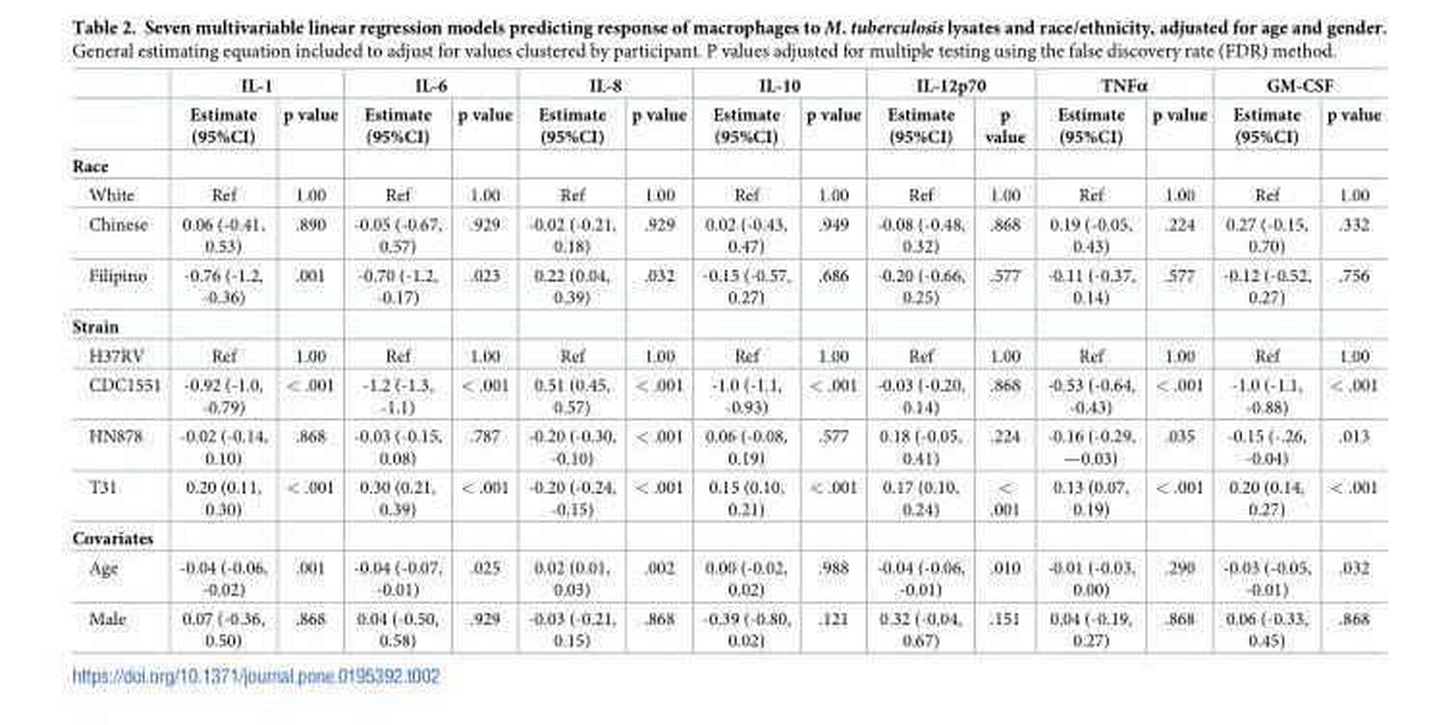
<table><thead><tr><td rowspan="2"></td><td colspan="2">IL-1</td><td colspan="2">IL-6</td><td colspan="2">IL-8</td><td colspan="2">IL-10</td><td colspan="2">IL-12p70</td><td colspan="2">TNFα</td><td colspan="2">GM-CSF</td></tr><tr><td>Estimate (95%CI)</td><td>p value</td><td>Estimate (95%CI)</td><td>p value</td><td>Estimate (95%CI)</td><td>p value</td><td>Estimate (95%CI)</td><td>p value</td><td>Estimate (95%CI)</td><td>p value</td><td>Estimate (95%CI)</td><td>p value</td><td>Estimate (95%CI)</td><td>p value</td></tr></thead><tbody><tr><td colspan="15">Race</td></tr><tr><td>White</td><td>Ref</td><td>1.00</td><td>Ref</td><td>1.00</td><td>Ref</td><td>1.00</td><td>Ref</td><td>1.00</td><td>Ref</td><td>1.00</td><td>Ref</td><td>1.00</td><td>Ref</td><td>1.00</td></tr><tr><td>Chinese</td><td>0.06 (-0.41, 0.53)</td><td>.890</td><td>-0.05 (-0.67, 0.57)</td><td>.929</td><td>-0.02 (-0.21, 0.18)</td><td>.929</td><td>0.02 (-0.43, 0.47)</td><td>.949</td><td>-0.08 (-0.48, 0.32)</td><td>.868</td><td>0.19 (-0.05, 0.43)</td><td>.224</td><td>0.27 (-0.15, 0.70)</td><td>.332</td></tr><tr><td>Filipino</td><td>-0.76 (-1.2, -0.36)</td><td>.001</td><td>-0.70 (-1.2, -0.17)</td><td>.023</td><td>0.22 (0.04, 0.39)</td><td>.032</td><td>-0.15 (-0.57, 0.27)</td><td>.686</td><td>-0.20 (-0.66, 0.25)</td><td>.577</td><td>-0.11 (-0.37, 0.14)</td><td>.577</td><td>-0.12 (-0.52, 0.27)</td><td>.756</td></tr><tr><td colspan="15">Strain</td></tr><tr><td>H37RV</td><td>Ref</td><td>1.00</td><td>Ref</td><td>1.00</td><td>Ref</td><td>1.00</td><td>Ref</td><td>1.00</td><td>Ref</td><td>1.00</td><td>Ref</td><td>1.00</td><td>Ref</td><td>1.00</td></tr><tr><td>CDC1551</td><td>-0.92 (-1.0, -0.79)</td><td>&lt; .001</td><td>-1.2 (-1.3, -1.1)</td><td>&lt; .001</td><td>0.51 (0.45, 0.57)</td><td>&lt; .001</td><td>-1.0 (-1.1, -0.93)</td><td>&lt; .001</td><td>-0.03 (-0.20, 0.14)</td><td>.868</td><td>-0.53 (-0.64, -0.43)</td><td>&lt; .001</td><td>-1.0 (-1.1, -0.88)</td><td>&lt; .001</td></tr><tr><td>HN878</td><td>-0.02 (-0.14, 0.10)</td><td>.868</td><td>-0.03 (-0.15, 0.08)</td><td>.787</td><td>-0.20 (-0.30, -0.10)</td><td>&lt; .001</td><td>0.06 (-0.08, 0.19)</td><td>.577</td><td>0.18 (-0.05, 0.41)</td><td>.224</td><td>-0.16 (-0.29, —0.03)</td><td>.035</td><td>-0.15 (-.26, -0.04)</td><td>.013</td></tr><tr><td>T31</td><td>0.20 (0.11, 0.30)</td><td>&lt; .001</td><td>0.30 (0.21, 0.39)</td><td>&lt; .001</td><td>-0.20 (-0.24, -0.15)</td><td>&lt; .001</td><td>0.15 (0.10, 0.21)</td><td>&lt; .001</td><td>0.17 (0.10, 0.24)</td><td>&lt; .001</td><td>0.13 (0.07, 0.19)</td><td>&lt; .001</td><td>0.20 (0.14, 0.27)</td><td>&lt; .001</td></tr><tr><td colspan="15">Covariates</td></tr><tr><td>Age</td><td>-0.04 (-0.06, -0.02)</td><td>.001</td><td>-0.04 (-0.07, -0.01)</td><td>.025</td><td>0.02 (0.01, 0.03)</td><td>.002</td><td>0.00 (-0.02, 0.02)</td><td>.988</td><td>-0.04 (-0.06, -0.01)</td><td>.010</td><td>-0.01 (-0.03, 0.00)</td><td>.290</td><td>-0.03 (-0.05, -0.01)</td><td>.032</td></tr><tr><td>Male</td><td>0.07 (-0.36, 0.50)</td><td>.868</td><td>0.04 (-0.50, 0.58)</td><td>.929</td><td>-0.03 (-0.21, 0.15)</td><td>.868</td><td>-0.39 (-0.80, 0.02)</td><td>.121</td><td>0.32 (-0.04, 0.67)</td><td>.151</td><td>0.04 (-0.19, 0.27)</td><td>.868</td><td>0.06 (-0.33, 0.45)</td><td>.868</td></tr></tbody></table>